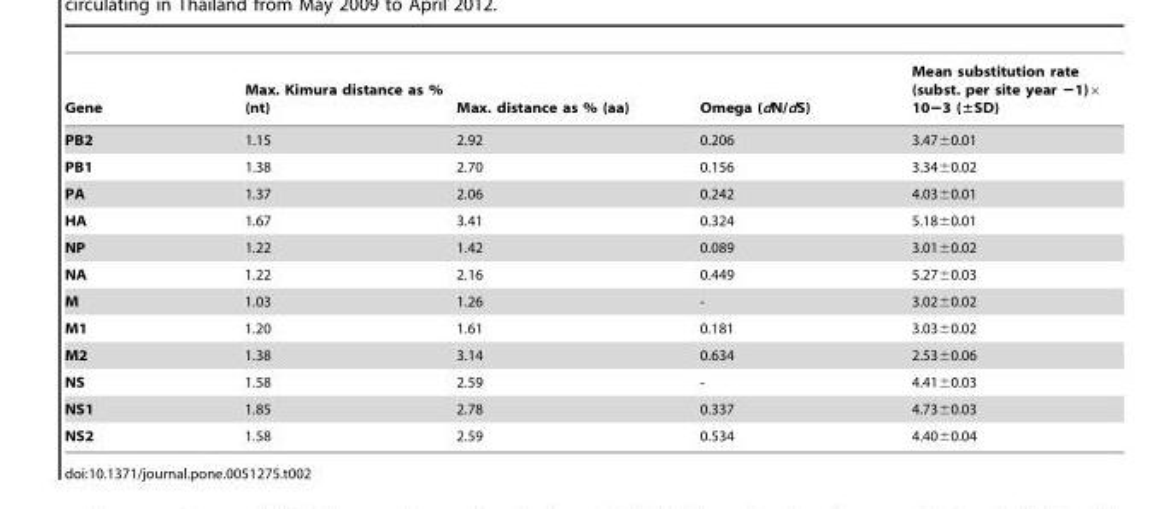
<table><thead><tr><td>Gene</td><td>Max. Kimura distance as % (nt)</td><td>Max. distance as % (aa)</td><td>Omega (dN/dS)</td><td>Mean substitution rate (subst. per site year −1)× 10−3 (±SD)</td></tr></thead><tbody><tr><td>PB2</td><td>1.15</td><td>2.92</td><td>0.206</td><td>3.47±0.01</td></tr><tr><td>PB1</td><td>1.38</td><td>2.70</td><td>0.156</td><td>3.34±0.02</td></tr><tr><td>PA</td><td>1.37</td><td>2.06</td><td>0.242</td><td>4.03±0.01</td></tr><tr><td>HA</td><td>1.67</td><td>3.41</td><td>0.324</td><td>5.18±0.01</td></tr><tr><td>NP</td><td>1.22</td><td>1.42</td><td>0.089</td><td>3.01±0.02</td></tr><tr><td>NA</td><td>1.22</td><td>2.16</td><td>0.449</td><td>5.27±0.03</td></tr><tr><td>M</td><td>1.03</td><td>1.26</td><td>-</td><td>3.02±0.02</td></tr><tr><td>M1</td><td>1.20</td><td>1.61</td><td>0.181</td><td>3.03±0.02</td></tr><tr><td>M2</td><td>1.38</td><td>3.14</td><td>0.634</td><td>2.53±0.06</td></tr><tr><td>NS</td><td>1.58</td><td>2.59</td><td>-</td><td>4.41±0.03</td></tr><tr><td>NS1</td><td>1.85</td><td>2.78</td><td>0.337</td><td>4.73±0.03</td></tr><tr><td>NS2</td><td>1.58</td><td>2.59</td><td>0.534</td><td>4.40±0.04</td></tr></tbody></table>